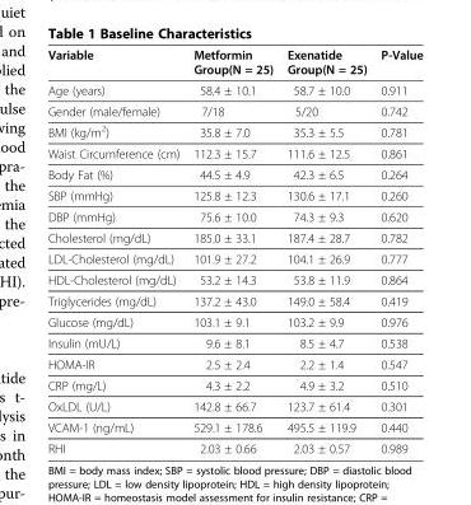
<table><thead><tr><td>Variable</td><td>Metformin Group(N = 25)</td><td>Exenatide Group(N = 25)</td><td>P-Value</td></tr></thead><tbody><tr><td>Age (years)</td><td>58.4 ± 10.1</td><td>58.7 ± 10.0</td><td>0.911</td></tr><tr><td>Gender (male/female)</td><td>7/18</td><td>5/20</td><td>0.742</td></tr><tr><td>BMI (kg/m<sup>2</sup>)</td><td>35.8 ± 7.0</td><td>35.3 ± 5.5</td><td>0.781</td></tr><tr><td>Waist Circumference (cm)</td><td>112.3 ± 15.7</td><td>111.6 ± 12.5</td><td>0.861</td></tr><tr><td>Body Fat (%)</td><td>44.5 ± 4.9</td><td>42.3 ± 6.5</td><td>0.264</td></tr><tr><td>SBP (mmHg)</td><td>125.8 ± 12.3</td><td>130.6 ± 17.1</td><td>0.260</td></tr><tr><td>DBP (mmHg)</td><td>75.6 ± 10.0</td><td>74.3 ± 9.3</td><td>0.620</td></tr><tr><td>Cholesterol (mg/dL)</td><td>185.0 ± 33.1</td><td>187.4 ± 28.7</td><td>0.782</td></tr><tr><td>LDL-Cholesterol (mg/dL)</td><td>101.9 ± 27.2</td><td>104.1 ± 26.9</td><td>0.777</td></tr><tr><td>HDL-Cholesterol (mg/dL)</td><td>53.2 ± 14.3</td><td>53.8 ± 11.9</td><td>0.864</td></tr><tr><td>Triglycerides (mg/dL)</td><td>137.2 ± 43.0</td><td>149.0 ± 58.4</td><td>0.419</td></tr><tr><td>Glucose (mg/dL)</td><td>103.1 ± 9.1</td><td>103.2 ± 9.9</td><td>0.976</td></tr><tr><td>Insulin (mU/L)</td><td>9.6 ± 8.1</td><td>8.5 ± 4.7</td><td>0.538</td></tr><tr><td>HOMA-IR</td><td>2.5 ± 2.4</td><td>2.2 ± 1.4</td><td>0.547</td></tr><tr><td>CRP (mg/L)</td><td>4.3 ± 2.2</td><td>4.9 ± 3.2</td><td>0.510</td></tr><tr><td>OxLDL (U/L)</td><td>142.8 ± 66.7</td><td>123.7 ± 61.4</td><td>0.301</td></tr><tr><td>VCAM-1 (ng/mL)</td><td>529.1 ± 178.6</td><td>495.5 ± 119.9</td><td>0.440</td></tr><tr><td>RHI</td><td>2.03 ± 0.66</td><td>2.03 ± 0.57</td><td>0.989</td></tr></tbody></table>